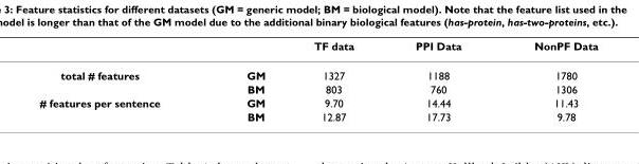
<table><thead><tr><td></td><td></td><td>TF data</td><td>PPI Data</td><td>NonPF Data</td></tr></thead><tbody><tr><td rowspan="2">total # features</td><td>GM</td><td>1327</td><td>1188</td><td>1780</td></tr><tr><td>BM</td><td>803</td><td>760</td><td>1306</td></tr><tr><td rowspan="2"># features per sentence</td><td>GM</td><td>9.70</td><td>14.44</td><td>11.43</td></tr><tr><td>BM</td><td>12.87</td><td>17.73</td><td>9.78</td></tr></tbody></table>